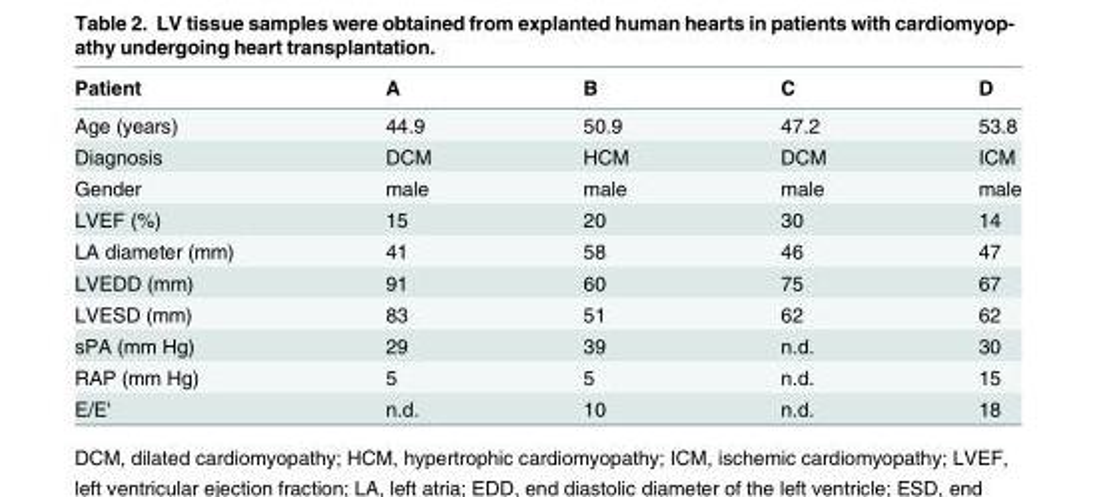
<table><thead><tr><td>Patient</td><td>A</td><td>B</td><td>C</td><td>D</td></tr></thead><tbody><tr><td>Age (years)</td><td>44.9</td><td>50.9</td><td>47.2</td><td>53.8</td></tr><tr><td>Diagnosis</td><td>DCM</td><td>HCM</td><td>DCM</td><td>ICM</td></tr><tr><td>Gender</td><td>male</td><td>male</td><td>male</td><td>male</td></tr><tr><td>LVEF (%)</td><td>15</td><td>20</td><td>30</td><td>14</td></tr><tr><td>LA diameter (mm)</td><td>41</td><td>58</td><td>46</td><td>47</td></tr><tr><td>LVEDD (mm)</td><td>91</td><td>60</td><td>75</td><td>67</td></tr><tr><td>LVESD (mm)</td><td>83</td><td>51</td><td>62</td><td>62</td></tr><tr><td>sPA (mm Hg)</td><td>29</td><td>39</td><td>n.d.</td><td>30</td></tr><tr><td>RAP (mm Hg)</td><td>5</td><td>5</td><td>n.d.</td><td>15</td></tr><tr><td>E/E&#x27;</td><td>n.d.</td><td>10</td><td>n.d.</td><td>18</td></tr></tbody></table>